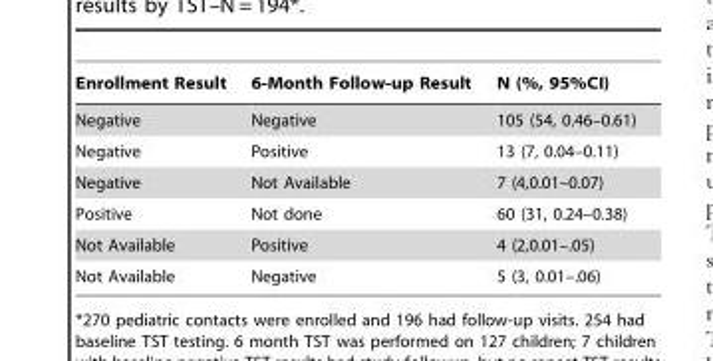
<table><thead><tr><td>Enrollment Result</td><td>6-Month Follow-up Result</td><td>N (%, 95%CI)</td></tr></thead><tbody><tr><td>Negative</td><td>Negative</td><td>105 (54, 0.46–0.61)</td></tr><tr><td>Negative</td><td>Positive</td><td>13 (7, 0.04–0.11)</td></tr><tr><td>Negative</td><td>Not Available</td><td>7 (4,0.01–0.07)</td></tr><tr><td>Positive</td><td>Not done</td><td>60 (31, 0.24–0.38)</td></tr><tr><td>Not Available</td><td>Positive</td><td>4 (2,0.01–.05)</td></tr><tr><td>Not Available</td><td>Negative</td><td>5 (3, 0.01–.06)</td></tr></tbody></table>